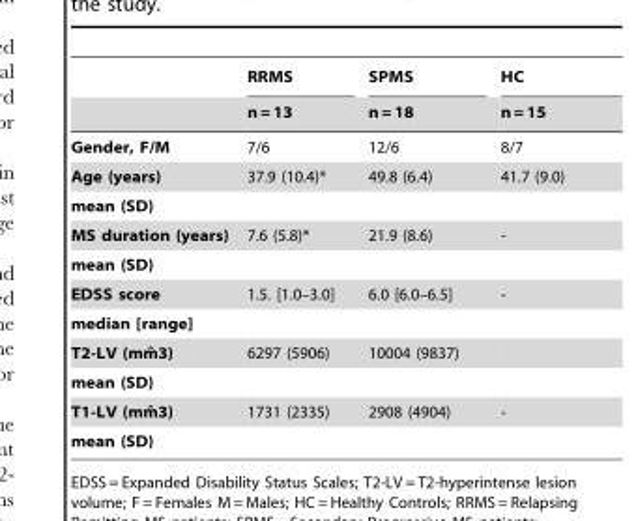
<table><thead><tr><td rowspan="2"></td><td rowspan="2">RRMS n = 13</td><td rowspan="2">SPMS n = 18</td><td rowspan="2">HC n = 15</td></tr><tr></tr></thead><tbody><tr><td>Gender, F/M</td><td>7/6</td><td>12/6</td><td>8/7</td></tr><tr><td>Age (years)</td><td>37.9 (10.4)*</td><td>49.8 (6.4)</td><td>41.7 (9.0)</td></tr><tr><td colspan="4">mean (SD)</td></tr><tr><td>MS duration (years)</td><td>7.6 (5.8)*</td><td>21.9 (8.6)</td><td>-</td></tr><tr><td colspan="4">mean (SD)</td></tr><tr><td>EDSS score</td><td>1.5. [1.0–3.0]</td><td>6.0 [6.0–6.5]</td><td>-</td></tr><tr><td colspan="4">median [range]</td></tr><tr><td>T2-LV (mmˆ 3)</td><td>6297 (5906)</td><td>10004 (9837)</td><td></td></tr><tr><td colspan="4">mean (SD)</td></tr><tr><td>T1-LV (mmˆ 3)</td><td>1731 (2335)</td><td>2908 (4904)</td><td>-</td></tr><tr><td>mean (SD)</td><td></td><td></td><td></td></tr></tbody></table>